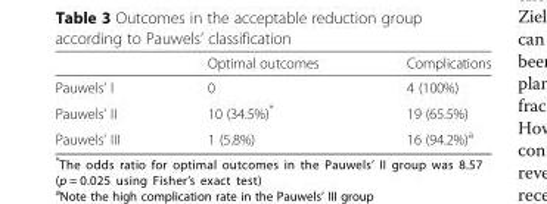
<table><thead><tr><td></td><td>Optimal outcomes</td><td>Complications</td></tr></thead><tbody><tr><td>Pauwels’ I</td><td>0</td><td>4 (100%)</td></tr><tr><td>Pauwels’ II</td><td>10 (34.5%)*</td><td>19 (65.5%)</td></tr><tr><td>Pauwels’ III</td><td>1 (5.8%)</td><td>16 (94.2%)<sup>a</sup></td></tr></tbody></table>